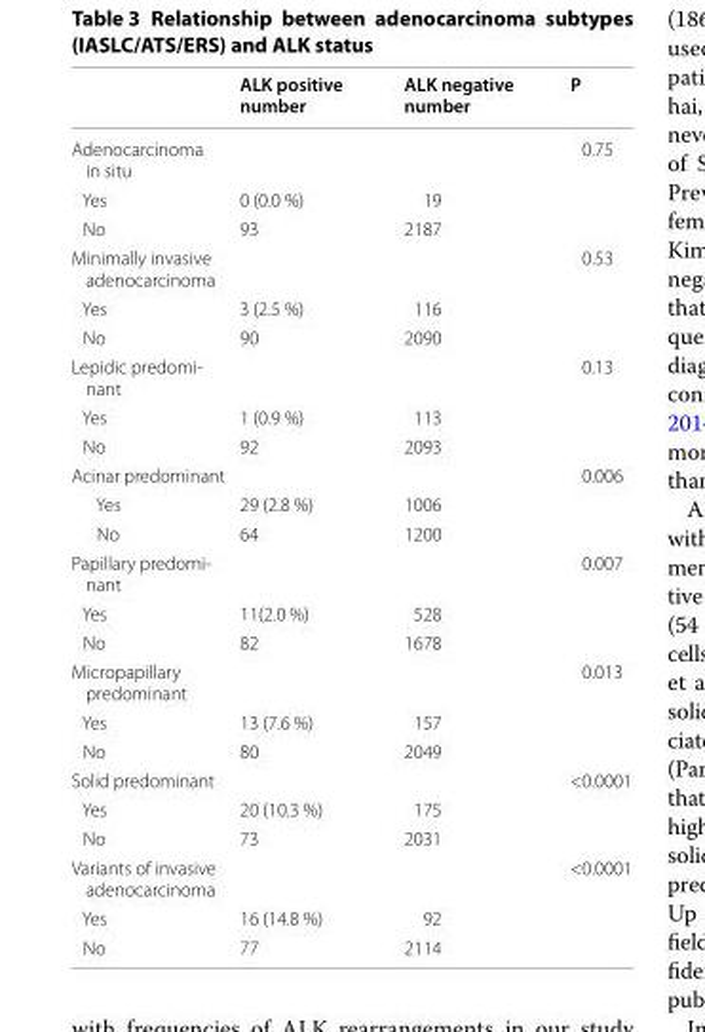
<table><thead><tr><td></td><td>ALK positive number</td><td>ALK negative number</td><td>P</td></tr></thead><tbody><tr><td>Adenocarcinoma in situ</td><td></td><td></td><td>0.75</td></tr><tr><td>Yes</td><td>0 (0.0 %)</td><td>19</td><td rowspan="2"></td></tr><tr><td>No</td><td>93</td><td>2187</td></tr><tr><td>Minimally invasive adenocarcinoma</td><td></td><td></td><td>0.53</td></tr><tr><td>Yes</td><td>3 (2.5 %)</td><td>116</td><td rowspan="2"></td></tr><tr><td>No</td><td>90</td><td>2090</td></tr><tr><td>Lepidic predomi- nant</td><td></td><td></td><td>0.13</td></tr><tr><td>Yes</td><td>1 (0.9 %)</td><td>113</td><td rowspan="2"></td></tr><tr><td>No</td><td>92</td><td>2093</td></tr><tr><td>Acinar predominant</td><td></td><td></td><td>0.006</td></tr><tr><td>Yes</td><td>29 (2.8 %)</td><td>1006</td><td rowspan="2"></td></tr><tr><td>No</td><td>64</td><td>1200</td></tr><tr><td>Papillary predomi- nant</td><td></td><td></td><td>0.007</td></tr><tr><td>Yes</td><td>11(2.0 %)</td><td>528</td><td rowspan="2"></td></tr><tr><td>No</td><td>82</td><td>1678</td></tr><tr><td>Micropapillary predominant</td><td></td><td></td><td>0.013</td></tr><tr><td>Yes</td><td>13 (7.6 %)</td><td>157</td><td rowspan="2"></td></tr><tr><td>No</td><td>80</td><td>2049</td></tr><tr><td>Solid predominant</td><td></td><td></td><td>&lt;0.0001</td></tr><tr><td>Yes</td><td>20 (10.3 %)</td><td>175</td><td rowspan="2"></td></tr><tr><td>No</td><td>73</td><td>2031</td></tr><tr><td>Variants of invasive adenocarcinoma</td><td></td><td></td><td>&lt;0.0001</td></tr><tr><td>Yes</td><td>16 (14.8 %)</td><td>92</td><td rowspan="2"></td></tr><tr><td>No</td><td>77</td><td>2114</td></tr></tbody></table>